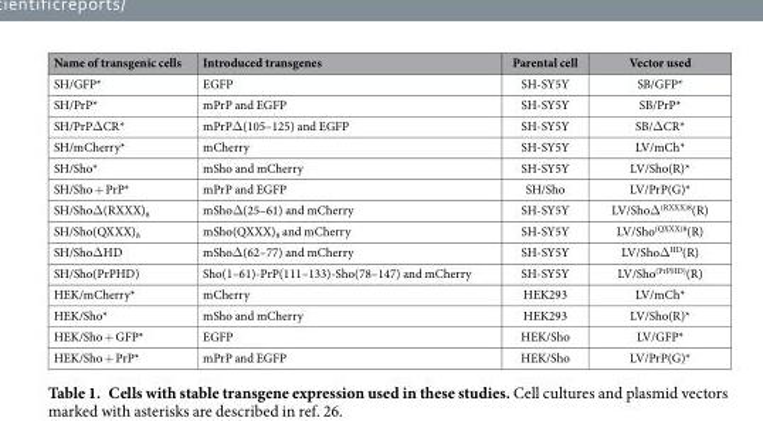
<table><thead><tr><td>Name of transgenic cells</td><td>Introduced transgenes</td><td>Parental cell</td><td>Vector used</td></tr></thead><tbody><tr><td>SH/GFP*</td><td>EGFP</td><td>SH-SY5Y</td><td>SB/GFP*</td></tr><tr><td>SH/PrP*</td><td>mPrP and EGFP</td><td>SH-SY5Y</td><td>SB/PrP*</td></tr><tr><td>SH/PrPΔ CR*</td><td>mPrPΔ (105–125) and EGFP</td><td>SH-SY5Y</td><td>SB/Δ CR*</td></tr><tr><td>SH/mCherry*</td><td>mCherry</td><td>SH-SY5Y</td><td>LV/mCh*</td></tr><tr><td>SH/Sho*</td><td>mSho and mCherry</td><td>SH-SY5Y</td><td>LV/Sho(R)*</td></tr><tr><td>SH/Sho + PrP*</td><td>mPrP and EGFP</td><td>SH/Sho</td><td>LV/PrP(G)*</td></tr><tr><td>SH/ShoΔ (RXXX)<sub>8</sub></td><td>mShoΔ (25–61) and mCherry</td><td>SH-SY5Y</td><td>LV/ShoΔ <sup>(RXXX)8</sup>(R)</td></tr><tr><td>SH/Sho(QXXX)<sub>8</sub></td><td>mSho(QXXX)<sub>8</sub> and mCherry</td><td>SH-SY5Y</td><td>LV/Sho<sup>(QXXX)8</sup>(R)</td></tr><tr><td>SH/ShoΔ HD</td><td>mShoΔ (62–77) and mCherry</td><td>SH-SY5Y</td><td>LV/ShoΔ <sup>HD</sup>(R)</td></tr><tr><td>SH/Sho(PrPHD)</td><td>Sho(1–61)-PrP(111–133)-Sho(78–147) and mCherry</td><td>SH-SY5Y</td><td>LV/Sho<sup>(PrPHD)</sup>(R)</td></tr><tr><td>HEK/mCherry*</td><td>mCherry</td><td>HEK293</td><td>LV/mCh*</td></tr><tr><td>HEK/Sho*</td><td>mSho and mCherry</td><td>HEK293</td><td>LV/Sho(R)*</td></tr><tr><td>HEK/Sho + GFP*</td><td>EGFP</td><td>HEK/Sho</td><td>LV/GFP*</td></tr><tr><td>HEK/Sho + PrP*</td><td>mPrP and EGFP</td><td>HEK/Sho</td><td>LV/PrP(G)*</td></tr></tbody></table>